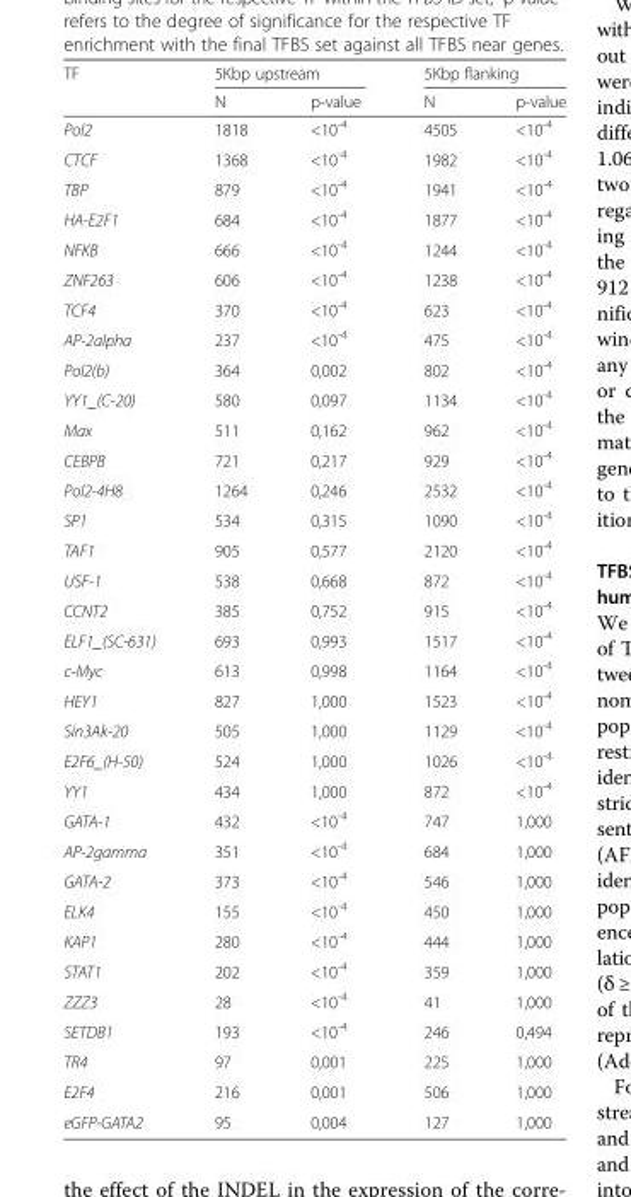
<table><thead><tr><td rowspan="2">TF</td><td colspan="2">5Kbp upstream</td><td colspan="2">5Kbp flanking</td></tr><tr><td>N</td><td>p-value</td><td>N</td><td>p-value</td></tr></thead><tbody><tr><td>Pol2</td><td>1818</td><td>&lt;10<sup>-4</sup></td><td>4505</td><td>&lt;10<sup>-4</sup></td></tr><tr><td>CTCF</td><td>1368</td><td>&lt;10<sup>-4</sup></td><td>1982</td><td>&lt;10<sup>-4</sup></td></tr><tr><td>TBP</td><td>879</td><td>&lt;10<sup>-4</sup></td><td>1941</td><td>&lt;10<sup>-4</sup></td></tr><tr><td>HA-E2F1</td><td>684</td><td>&lt;10<sup>-4</sup></td><td>1877</td><td>&lt;10<sup>-4</sup></td></tr><tr><td>NFKB</td><td>666</td><td>&lt;10<sup>-4</sup></td><td>1244</td><td>&lt;10<sup>-4</sup></td></tr><tr><td>ZNF263</td><td>606</td><td>&lt;10<sup>-4</sup></td><td>1238</td><td>&lt;10<sup>-4</sup></td></tr><tr><td>TCF4</td><td>370</td><td>&lt;10<sup>-4</sup></td><td>623</td><td>&lt;10<sup>-4</sup></td></tr><tr><td>AP-2alpha</td><td>237</td><td>&lt;10<sup>-4</sup></td><td>475</td><td>&lt;10<sup>-4</sup></td></tr><tr><td>Pol2(b)</td><td>364</td><td>0,002</td><td>802</td><td>&lt;10<sup>-4</sup></td></tr><tr><td>YY1_(C-20)</td><td>580</td><td>0,097</td><td>1134</td><td>&lt;10<sup>-4</sup></td></tr><tr><td>Max</td><td>511</td><td>0,162</td><td>962</td><td>&lt;10<sup>-4</sup></td></tr><tr><td>CEBPB</td><td>721</td><td>0,217</td><td>929</td><td>&lt;10<sup>-4</sup></td></tr><tr><td>Pol2-4H8</td><td>1264</td><td>0,246</td><td>2532</td><td>&lt;10<sup>-4</sup></td></tr><tr><td>SP1</td><td>534</td><td>0,315</td><td>1090</td><td>&lt;10<sup>-4</sup></td></tr><tr><td>TAF1</td><td>905</td><td>0,577</td><td>2120</td><td>&lt;10<sup>-4</sup></td></tr><tr><td>USF-1</td><td>538</td><td>0,668</td><td>872</td><td>&lt;10<sup>-4</sup></td></tr><tr><td>CCNT2</td><td>385</td><td>0,752</td><td>915</td><td>&lt;10<sup>-4</sup></td></tr><tr><td>ELF1_(SC-631)</td><td>693</td><td>0,993</td><td>1517</td><td>&lt;10<sup>-4</sup></td></tr><tr><td>c-Myc</td><td>613</td><td>0,998</td><td>1164</td><td>&lt;10<sup>-4</sup></td></tr><tr><td>HEY1</td><td>827</td><td>1,000</td><td>1523</td><td>&lt;10<sup>-4</sup></td></tr><tr><td>Sin3Ak-20</td><td>505</td><td>1,000</td><td>1129</td><td>&lt;10<sup>-4</sup></td></tr><tr><td>E2F6_(H-50)</td><td>524</td><td>1,000</td><td>1026</td><td>&lt;10<sup>-4</sup></td></tr><tr><td>YY1</td><td>434</td><td>1,000</td><td>872</td><td>&lt;10<sup>-4</sup></td></tr><tr><td>GATA-1</td><td>432</td><td>&lt;10<sup>-4</sup></td><td>747</td><td>1,000</td></tr><tr><td>AP-2gamma</td><td>351</td><td>&lt;10<sup>-4</sup></td><td>684</td><td>1,000</td></tr><tr><td>GATA-2</td><td>373</td><td>&lt;10<sup>-4</sup></td><td>546</td><td>1,000</td></tr><tr><td>ELK4</td><td>155</td><td>&lt;10<sup>-4</sup></td><td>450</td><td>1,000</td></tr><tr><td>KAP1</td><td>280</td><td>&lt;10<sup>-4</sup></td><td>444</td><td>1,000</td></tr><tr><td>STAT1</td><td>202</td><td>&lt;10<sup>-4</sup></td><td>359</td><td>1,000</td></tr><tr><td>ZZZ3</td><td>28</td><td>&lt;10<sup>-4</sup></td><td>41</td><td>1,000</td></tr><tr><td>SETDB1</td><td>193</td><td>&lt;10<sup>-4</sup></td><td>246</td><td>0,494</td></tr><tr><td>TR4</td><td>97</td><td>0,001</td><td>225</td><td>1,000</td></tr><tr><td>E2F4</td><td>216</td><td>0,001</td><td>506</td><td>1,000</td></tr><tr><td>eGFP-GATA2</td><td>95</td><td>0,004</td><td>127</td><td>1,000</td></tr></tbody></table>